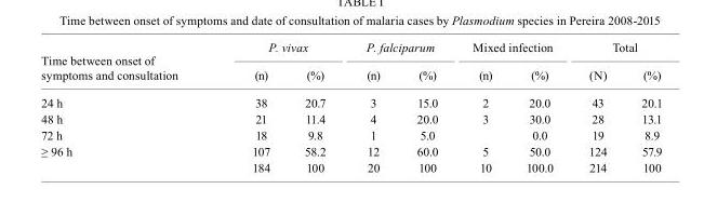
<table><thead><tr><td rowspan="2">Time between onset of symptoms and consultation</td><td colspan="2">P. vivax</td><td colspan="2">P. falciparum</td><td colspan="2">Mixed infection</td><td colspan="2">Total</td></tr><tr><td>(n)</td><td>(%)</td><td>(n)</td><td>(%)</td><td>(n)</td><td>(%)</td><td>(N)</td><td>(%)</td></tr></thead><tbody><tr><td>24 h</td><td>38</td><td>20.7</td><td>3</td><td>15.0</td><td>2</td><td>20.0</td><td>43</td><td>20.1</td></tr><tr><td>48 h</td><td>21</td><td>11.4</td><td>4</td><td>20.0</td><td>3</td><td>30.0</td><td>28</td><td>13.1</td></tr><tr><td>72 h</td><td>18</td><td>9.8</td><td>1</td><td>5.0</td><td></td><td>0.0</td><td>19</td><td>8.9</td></tr><tr><td rowspan="2">≥ 96 h</td><td>107</td><td>58.2</td><td>12</td><td>60.0</td><td>5</td><td>50.0</td><td>124</td><td>57.9</td></tr><tr><td>184</td><td>100</td><td>20</td><td>100</td><td>10</td><td>100.0</td><td>214</td><td>100</td></tr></tbody></table>